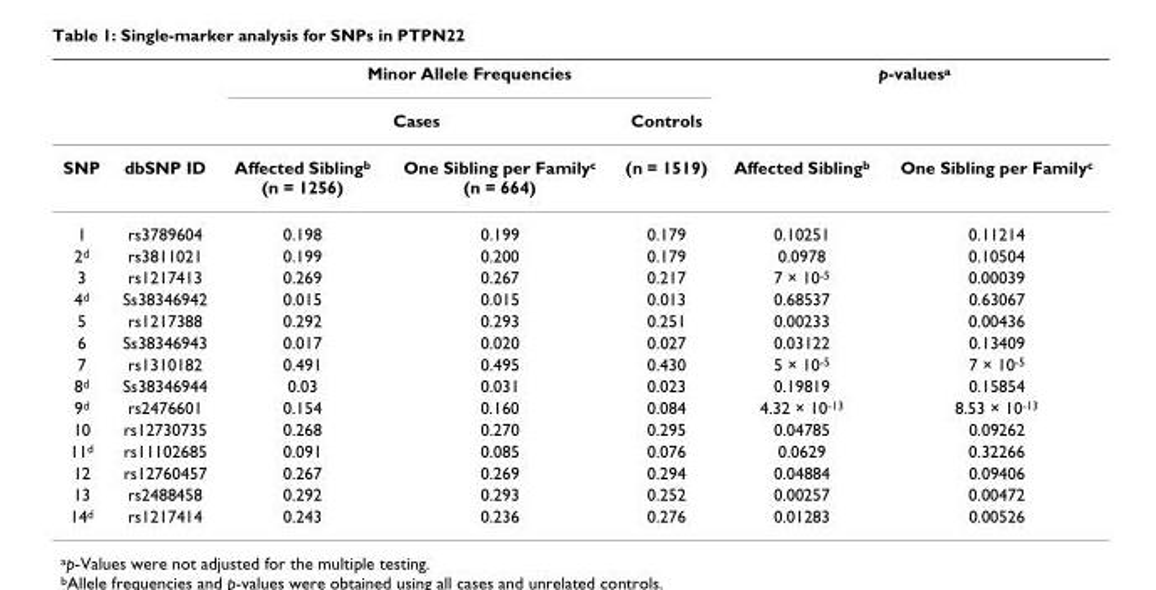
<table><thead><tr><td rowspan="3">SNP</td><td rowspan="3">dbSNP ID</td><td colspan="3">Minor Allele Frequencies</td><td colspan="2">p-values<sup>a</sup></td></tr><tr><td colspan="2">Cases</td><td rowspan="2">Controls (n = 1519)</td><td rowspan="2">Affected Sibling<sup>b</sup></td><td rowspan="2">One Sibling per Family<sup>c</sup></td></tr><tr><td>Affected Sibling<sup>b</sup> (n = 1256)</td><td>One Sibling per Family<sup>c</sup> (n = 664)</td></tr></thead><tbody><tr><td>1</td><td>rs3789604</td><td>0.198</td><td>0.199</td><td>0.179</td><td>0.10251</td><td>0.11214</td></tr><tr><td>2<sup>d</sup></td><td>rs3811021</td><td>0.199</td><td>0.200</td><td>0.179</td><td>0.0978</td><td>0.10504</td></tr><tr><td>3</td><td>rs1217413</td><td>0.269</td><td>0.267</td><td>0.217</td><td>7 × 10<sup>-5</sup></td><td>0.00039</td></tr><tr><td>4<sup>d</sup></td><td>Ss38346942</td><td>0.015</td><td>0.015</td><td>0.013</td><td>0.68537</td><td>0.63067</td></tr><tr><td>5</td><td>rs1217388</td><td>0.292</td><td>0.293</td><td>0.251</td><td>0.00233</td><td>0.00436</td></tr><tr><td>6</td><td>Ss38346943</td><td>0.017</td><td>0.020</td><td>0.027</td><td>0.03122</td><td>0.13409</td></tr><tr><td>7</td><td>rs1310182</td><td>0.491</td><td>0.495</td><td>0.430</td><td>5 × 10<sup>-5</sup></td><td>7 × 10<sup>-5</sup></td></tr><tr><td>8<sup>d</sup></td><td>Ss38346944</td><td>0.03</td><td>0.031</td><td>0.023</td><td>0.19819</td><td>0.15854</td></tr><tr><td>9<sup>d</sup></td><td>rs2476601</td><td>0.154</td><td>0.160</td><td>0.084</td><td>4.32 × 10<sup>-13</sup></td><td>8.53 × 10<sup>-13</sup></td></tr><tr><td>10</td><td>rs12730735</td><td>0.268</td><td>0.270</td><td>0.295</td><td>0.04785</td><td>0.09262</td></tr><tr><td>11<sup>d</sup></td><td>rs11102685</td><td>0.091</td><td>0.085</td><td>0.076</td><td>0.0629</td><td>0.32266</td></tr><tr><td>12</td><td>rs12760457</td><td>0.267</td><td>0.269</td><td>0.294</td><td>0.04884</td><td>0.09406</td></tr><tr><td>13</td><td>rs2488458</td><td>0.292</td><td>0.293</td><td>0.252</td><td>0.00257</td><td>0.00472</td></tr><tr><td>14<sup>d</sup></td><td>rs1217414</td><td>0.243</td><td>0.236</td><td>0.276</td><td>0.01283</td><td>0.00526</td></tr></tbody></table>